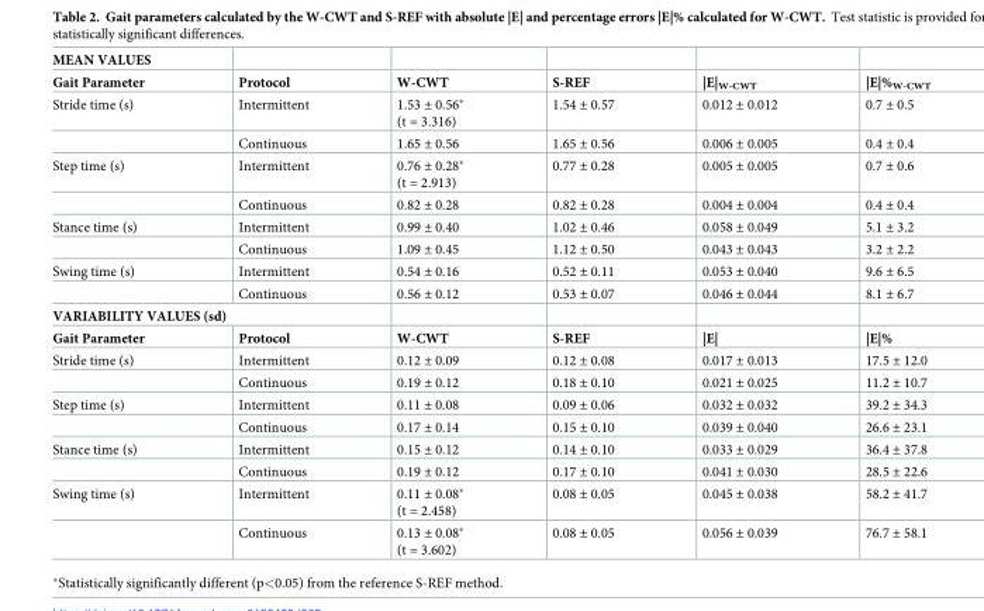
<table><tbody><tr><td colspan="6">MEAN VALUES</td></tr><tr><td>Gait Parameter</td><td>Protocol</td><td>W-CWT</td><td>S-REF</td><td>|E|<sub>W-CWT</sub></td><td>|E|%<sub>W-CWT</sub></td></tr><tr><td rowspan="2">Stride time (s)</td><td>Intermittent</td><td>1.53 ± 0.56* (t = 3.316)</td><td>1.54 ± 0.57</td><td>0.012 ± 0.012</td><td>0.7 ± 0.5</td></tr><tr><td>Continuous</td><td>1.65 ± 0.56</td><td>1.65 ± 0.56</td><td>0.006 ± 0.005</td><td>0.4 ± 0.4</td></tr><tr><td rowspan="2">Step time (s)</td><td>Intermittent</td><td>0.76 ± 0.28* (t = 2.913)</td><td>0.77 ± 0.28</td><td>0.005 ± 0.005</td><td>0.7 ± 0.6</td></tr><tr><td>Continuous</td><td>0.82 ± 0.28</td><td>0.82 ± 0.28</td><td>0.004 ± 0.004</td><td>0.4 ± 0.4</td></tr><tr><td rowspan="2">Stance time (s)</td><td>Intermittent</td><td>0.99 ± 0.40</td><td>1.02 ± 0.46</td><td>0.058 ± 0.049</td><td>5.1 ± 3.2</td></tr><tr><td>Continuous</td><td>1.09 ± 0.45</td><td>1.12 ± 0.50</td><td>0.043 ± 0.043</td><td>3.2 ± 2.2</td></tr><tr><td rowspan="2">Swing time (s)</td><td>Intermittent</td><td>0.54 ± 0.16</td><td>0.52 ± 0.11</td><td>0.053 ± 0.040</td><td>9.6 ± 6.5</td></tr><tr><td>Continuous</td><td>0.56 ± 0.12</td><td>0.53 ± 0.07</td><td>0.046 ± 0.044</td><td>8.1 ± 6.7</td></tr><tr><td colspan="6">VARIABILITY VALUES (sd)</td></tr><tr><td>Gait Parameter</td><td>Protocol</td><td>W-CWT</td><td>S-REF</td><td>|E|</td><td>|E|%</td></tr><tr><td rowspan="2">Stride time (s)</td><td>Intermittent</td><td>0.12 ± 0.09</td><td>0.12 ± 0.08</td><td>0.017 ± 0.013</td><td>17.5 ± 12.0</td></tr><tr><td>Continuous</td><td>0.19 ± 0.12</td><td>0.18 ± 0.10</td><td>0.021 ± 0.025</td><td>11.2 ± 10.7</td></tr><tr><td rowspan="2">Step time (s)</td><td>Intermittent</td><td>0.11 ± 0.08</td><td>0.09 ± 0.06</td><td>0.032 ± 0.032</td><td>39.2 ± 34.3</td></tr><tr><td>Continuous</td><td>0.17 ± 0.14</td><td>0.15 ± 0.10</td><td>0.039 ± 0.040</td><td>26.6 ± 23.1</td></tr><tr><td rowspan="2">Stance time (s)</td><td>Intermittent</td><td>0.15 ± 0.12</td><td>0.14 ± 0.10</td><td>0.033 ± 0.029</td><td>36.4 ± 37.8</td></tr><tr><td>Continuous</td><td>0.19 ± 0.12</td><td>0.17 ± 0.10</td><td>0.041 ± 0.030</td><td>28.5 ± 22.6</td></tr><tr><td rowspan="2">Swing time (s)</td><td>Intermittent</td><td>0.11 ± 0.08* (t = 2.458)</td><td>0.08 ± 0.05</td><td>0.045 ± 0.038</td><td>58.2 ± 41.7</td></tr><tr><td>Continuous</td><td>0.13 ± 0.08* (t = 3.602)</td><td>0.08 ± 0.05</td><td>0.056 ± 0.039</td><td>76.7 ± 58.1</td></tr></tbody></table>